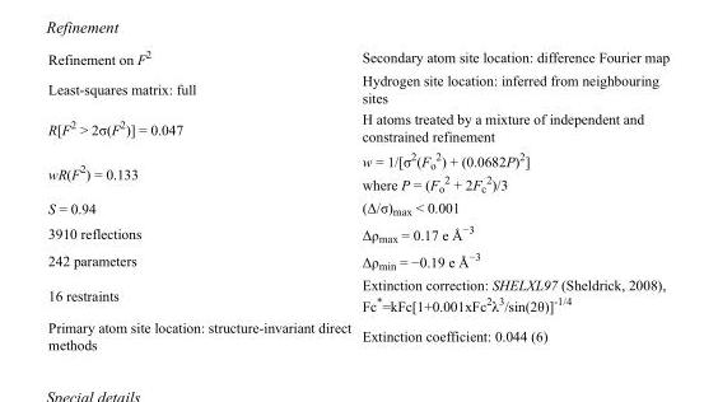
<table><tbody><tr><td>Refinement on F<sup>2</sup></td><td>Secondary atom site location: difference Fourier map</td></tr><tr><td>Least-squares matrix: full</td><td>Hydrogen site location: inferred from neighbouring sites</td></tr><tr><td>R[F<sup>2</sup> &gt; 2σ(F<sup>2</sup>)] = 0.047</td><td>H atoms treated by a mixture of independent and constrained refinement</td></tr><tr><td>wR(F<sup>2</sup>) = 0.133</td><td>w = 1/[σ<sup>2</sup>(F<sub>o</sub> <sup>2</sup>) + (0.0682P)<sup>2</sup>] where P = (F<sub>o</sub> <sup>2</sup> + 2F<sub>c</sub> <sup>2</sup>)/3</td></tr><tr><td>S = 0.94</td><td>(Δ/σ)<sub>max</sub> &lt; 0.001</td></tr><tr><td>3910 reflections</td><td>Δρ<sub>max</sub> = 0.17 e Å<sup>−3</sup></td></tr><tr><td>242 parameters</td><td>Δρ<sub>min</sub> = −0.19 e Å<sup>−3</sup></td></tr><tr><td>16 restraints</td><td>Extinction correction: SHELXL97 (Sheldrick, 2008), Fc*=kFc[1+0.001xFc<sup>2</sup>λ<sup>3</sup>/sin(2θ)]<sup>-1/4</sup></td></tr><tr><td>Primary atom site location: structure-invariant direct methods</td><td>Extinction coefficient: 0.044 (6)</td></tr></tbody></table>